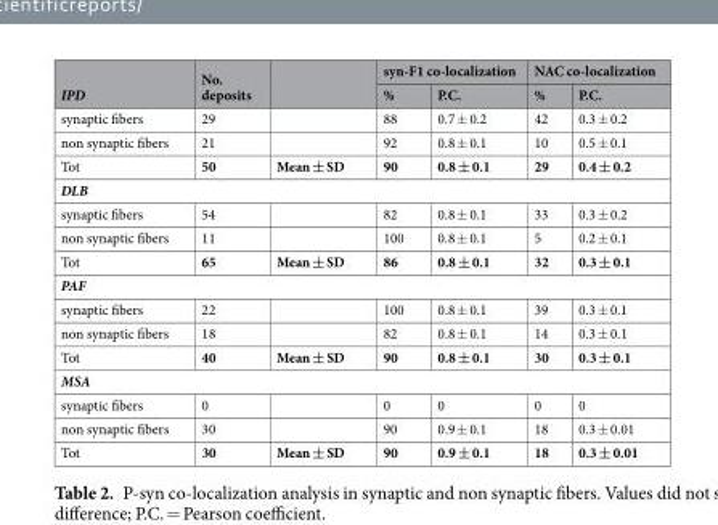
<table><thead><tr><td rowspan="2">IPD</td><td rowspan="2">No. deposits</td><td rowspan="2"></td><td colspan="2">syn-F1 co-localization</td><td colspan="2">NAC co-localization</td></tr><tr><td>%</td><td>P.C.</td><td>%</td><td>P.C.</td></tr></thead><tbody><tr><td>synaptic fibers</td><td>29</td><td></td><td>88</td><td>0.7 ± 0.2</td><td>42</td><td>0.3 ± 0.2</td></tr><tr><td>non synaptic fibers</td><td>21</td><td></td><td>92</td><td>0.8 ± 0.1</td><td>10</td><td>0.5 ± 0.1</td></tr><tr><td>Tot</td><td>50</td><td>Mean ± SD</td><td>90</td><td>0.8 ± 0.1</td><td>29</td><td>0.4 ± 0.2</td></tr><tr><td colspan="7">DLB</td></tr><tr><td>synaptic fibers</td><td>54</td><td></td><td>82</td><td>0.8 ± 0.1</td><td>33</td><td>0.3 ± 0.2</td></tr><tr><td>non synaptic fibers</td><td>11</td><td></td><td>100</td><td>0.8 ± 0.1</td><td>5</td><td>0.2 ± 0.1</td></tr><tr><td>Tot</td><td>65</td><td>Mean ± SD</td><td>86</td><td>0.8 ± 0.1</td><td>32</td><td>0.3 ± 0.1</td></tr><tr><td colspan="7">PAF</td></tr><tr><td>synaptic fibers</td><td>22</td><td></td><td>100</td><td>0.8 ± 0.1</td><td>39</td><td>0.3 ± 0.1</td></tr><tr><td>non synaptic fibers</td><td>18</td><td></td><td>82</td><td>0.8 ± 0.1</td><td>14</td><td>0.3 ± 0.1</td></tr><tr><td>Tot</td><td>40</td><td>Mean ± SD</td><td>90</td><td>0.8 ± 0.1</td><td>30</td><td>0.3 ± 0.1</td></tr><tr><td colspan="7">MSA</td></tr><tr><td>synaptic fibers</td><td>0</td><td></td><td>0</td><td>0</td><td>0</td><td>0</td></tr><tr><td>non synaptic fibers</td><td>30</td><td></td><td>90</td><td>0.9 ± 0.1</td><td>18</td><td>0.3 ± 0.01</td></tr><tr><td>Tot</td><td>30</td><td>Mean ± SD</td><td>90</td><td>0.9 ± 0.1</td><td>18</td><td>0.3 ± 0.01</td></tr></tbody></table>